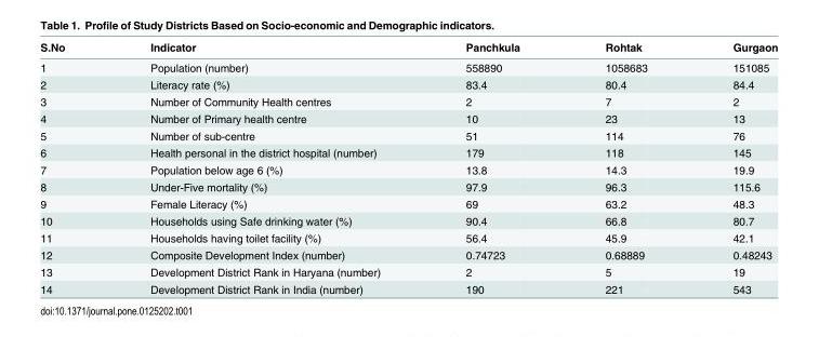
<table><thead><tr><td>S.No</td><td>Indicator</td><td>Panchkula</td><td>Rohtak</td><td>Gurgaon</td></tr></thead><tbody><tr><td>1</td><td>Population (number)</td><td>558890</td><td>1058683</td><td>151085</td></tr><tr><td>2</td><td>Literacy rate (%)</td><td>83.4</td><td>80.4</td><td>84.4</td></tr><tr><td>3</td><td>Number of Community Health centres</td><td>2</td><td>7</td><td>2</td></tr><tr><td>4</td><td>Number of Primary health centre</td><td>10</td><td>23</td><td>13</td></tr><tr><td>5</td><td>Number of sub-centre</td><td>51</td><td>114</td><td>76</td></tr><tr><td>6</td><td>Health personal in the district hospital (number)</td><td>179</td><td>118</td><td>145</td></tr><tr><td>7</td><td>Population below age 6 (%)</td><td>13.8</td><td>14.3</td><td>19.9</td></tr><tr><td>8</td><td>Under-Five mortality (%)</td><td>97.9</td><td>96.3</td><td>115.6</td></tr><tr><td>9</td><td>Female Literacy (%)</td><td>69</td><td>63.2</td><td>48.3</td></tr><tr><td>10</td><td>Households using Safe drinking water (%)</td><td>90.4</td><td>66.8</td><td>80.7</td></tr><tr><td>11</td><td>Households having toilet facility (%)</td><td>56.4</td><td>45.9</td><td>42.1</td></tr><tr><td>12</td><td>Composite Development Index (number)</td><td>0.74723</td><td>0.68889</td><td>0.48243</td></tr><tr><td>13</td><td>Development District Rank in Haryana (number)</td><td>2</td><td>5</td><td>19</td></tr><tr><td>14</td><td>Development District Rank in India (number)</td><td>190</td><td>221</td><td>543</td></tr></tbody></table>